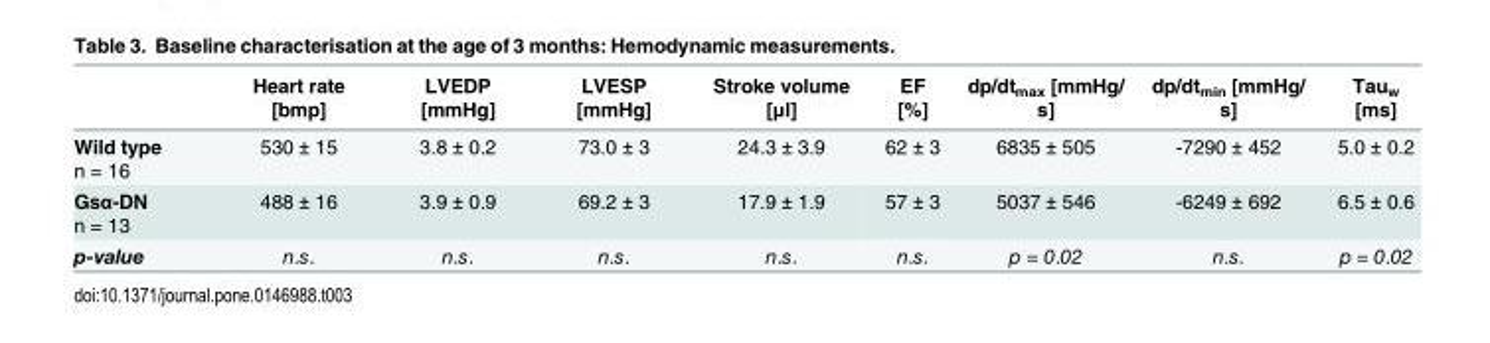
<table><thead><tr><td></td><td>Heart rate [bmp]</td><td>LVEDP [mmHg]</td><td>LVESP [mmHg]</td><td>Stroke volume [μl]</td><td>EF [%]</td><td>dp/dt<sub>max</sub> [mmHg/ s]</td><td>dp/dt<sub>min</sub> [mmHg/ s]</td><td>Tau<sub>w</sub> [ms]</td></tr></thead><tbody><tr><td>Wild type n = 16</td><td>530 ± 15</td><td>3.8 ± 0.2</td><td>73.0 ± 3</td><td>24.3 ± 3.9</td><td>62 ± 3</td><td>6835 ± 505</td><td>-7290 ± 452</td><td>5.0 ± 0.2</td></tr><tr><td>Gsα-DN n = 13</td><td>488 ± 16</td><td>3.9 ± 0.9</td><td>69.2 ± 3</td><td>17.9 ± 1.9</td><td>57 ± 3</td><td>5037 ± 546</td><td>-6249 ± 692</td><td>6.5 ± 0.6</td></tr><tr><td>p-value</td><td>n.s.</td><td>n.s.</td><td>n.s.</td><td>n.s.</td><td>n.s.</td><td>p = 0.02</td><td>n.s.</td><td>p = 0.02</td></tr></tbody></table>